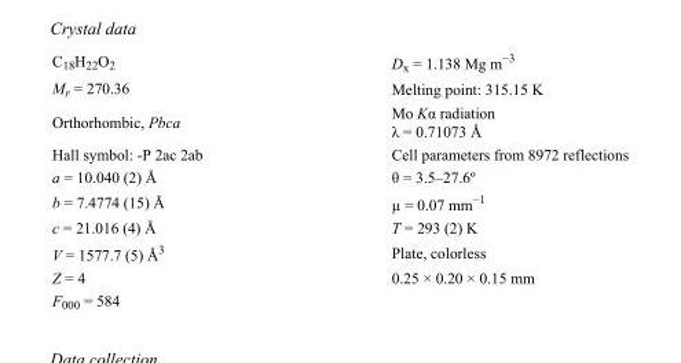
<table><tbody><tr><td>C<sub>18</sub>H<sub>22</sub>O<sub>2</sub></td><td>D<sub>x</sub> = 1.138 Mg m<sup>−3</sup></td></tr><tr><td>M<sub>r</sub> = 270.36</td><td>Melting point: 315.15 K</td></tr><tr><td>Orthorhombic, Pbca</td><td>Mo Kα radiation λ = 0.71073 Å</td></tr><tr><td>Hall symbol: -P 2ac 2ab</td><td>Cell parameters from 8972 reflections</td></tr><tr><td>a = 10.040 (2) Å</td><td>θ = 3.5–27.6º</td></tr><tr><td>b = 7.4774 (15) Å</td><td>µ = 0.07 mm<sup>−1</sup></td></tr><tr><td>c = 21.016 (4) Å</td><td>T = 293 (2) K</td></tr><tr><td>V = 1577.7 (5) Å<sup>3</sup></td><td>Plate, colorless</td></tr><tr><td>Z = 4</td><td>0.25 × 0.20 × 0.15 mm</td></tr><tr><td>F000 = 584</td><td></td></tr></tbody></table>